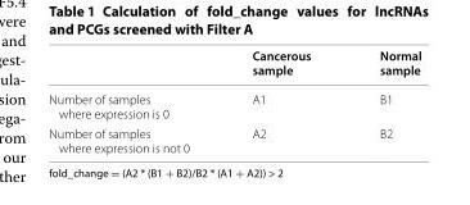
<table><thead><tr><td></td><td>Cancerous sample</td><td>Normal sample</td></tr></thead><tbody><tr><td>Number of samples where expression is 0</td><td>A1</td><td>B1</td></tr><tr><td>Number of samples where expression is not 0</td><td>A2</td><td>B2</td></tr></tbody></table>